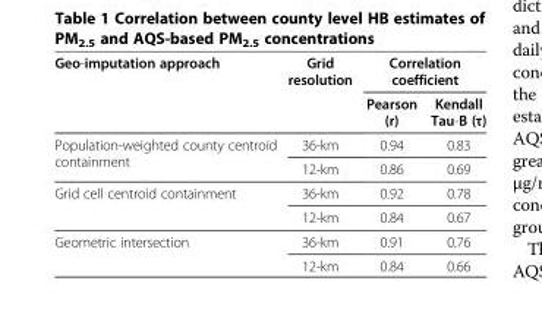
<table><thead><tr><td rowspan="2">Geo-imputation approach</td><td rowspan="2">Grid resolution</td><td colspan="2">Correlation coefficient</td></tr><tr><td>Pearson (r)</td><td>Kendall Tau-B (τ)</td></tr></thead><tbody><tr><td rowspan="2">Population-weighted county centroid containment</td><td>36-km</td><td>0.94</td><td>0.83</td></tr><tr><td>12-km</td><td>0.86</td><td>0.69</td></tr><tr><td rowspan="2">Grid cell centroid containment</td><td>36-km</td><td>0.92</td><td>0.78</td></tr><tr><td>12-km</td><td>0.84</td><td>0.67</td></tr><tr><td rowspan="2">Geometric intersection</td><td>36-km</td><td>0.91</td><td>0.76</td></tr><tr><td>12-km</td><td>0.84</td><td>0.66</td></tr></tbody></table>